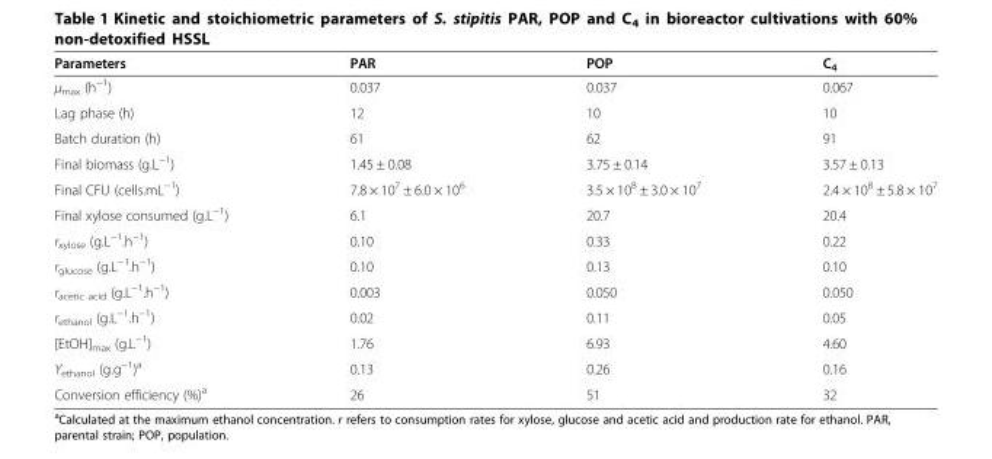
<table><thead><tr><td>Parameters</td><td>PAR</td><td>POP</td><td>C<sub>4</sub></td></tr></thead><tbody><tr><td>μ<sub>max</sub> (h<sup>−1</sup>)</td><td>0.037</td><td>0.037</td><td>0.067</td></tr><tr><td>Lag phase (h)</td><td>12</td><td>10</td><td>10</td></tr><tr><td>Batch duration (h)</td><td>61</td><td>62</td><td>91</td></tr><tr><td>Final biomass (g.L<sup>−1</sup>)</td><td>1.45 ± 0.08</td><td>3.75 ± 0.14</td><td>3.57 ± 0.13</td></tr><tr><td>Final CFU (cells.mL<sup>−1</sup>)</td><td>7.8 × 10<sup>7</sup> ± 6.0 × 10<sup>6</sup></td><td>3.5 × 10<sup>8</sup> ± 3.0 × 10<sup>7</sup></td><td>2.4 × 10<sup>8</sup> ± 5.8 × 10<sup>7</sup></td></tr><tr><td>Final xylose consumed (g.L<sup>−1</sup>)</td><td>6.1</td><td>20.7</td><td>20.4</td></tr><tr><td>r<sub>xylose</sub> (g.L<sup>−1</sup>.h<sup>−1</sup>)</td><td>0.10</td><td>0.33</td><td>0.22</td></tr><tr><td>r<sub>glucose</sub> (g.L<sup>−1</sup>.h<sup>−1</sup>)</td><td>0.10</td><td>0.13</td><td>0.10</td></tr><tr><td>r<sub>acetic acid</sub> (g.L<sup>−1</sup>.h<sup>−1</sup>)</td><td>0.003</td><td>0.050</td><td>0.050</td></tr><tr><td>r<sub>ethanol</sub> (g.L<sup>−1</sup>.h<sup>−1</sup>)</td><td>0.02</td><td>0.11</td><td>0.05</td></tr><tr><td>[EtOH]<sub>max</sub> (g.L<sup>−1</sup>)</td><td>1.76</td><td>6.93</td><td>4.60</td></tr><tr><td>Y<sub>ethanol</sub> (g.g<sup>−1</sup>)<sup>a</sup></td><td>0.13</td><td>0.26</td><td>0.16</td></tr><tr><td>Conversion efficiency (%)<sup>a</sup></td><td>26</td><td>51</td><td>32</td></tr></tbody></table>